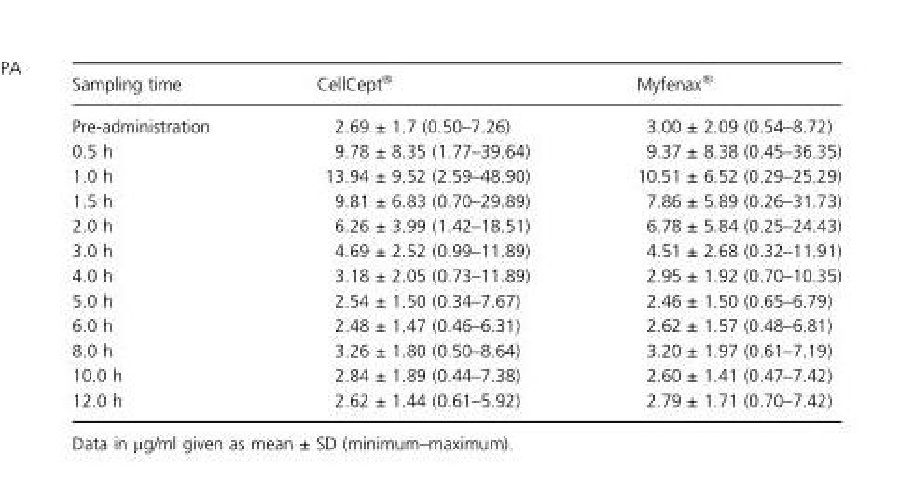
<table><thead><tr><td>Sampling time</td><td>CellCept®</td><td>Myfenax®</td></tr></thead><tbody><tr><td>Pre-administration</td><td>2.69 ± 1.7 (0.50–7.26)</td><td>3.00 ± 2.09 (0.54–8.72)</td></tr><tr><td>0.5 h</td><td>9.78 ± 8.35 (1.77–39.64)</td><td>9.37 ± 8.38 (0.45–36.35)</td></tr><tr><td>1.0 h</td><td>13.94 ± 9.52 (2.59–48.90)</td><td>10.51 ± 6.52 (0.29–25.29)</td></tr><tr><td>1.5 h</td><td>9.81 ± 6.83 (0.70–29.89)</td><td>7.86 ± 5.89 (0.26–31.73)</td></tr><tr><td>2.0 h</td><td>6.26 ± 3.99 (1.42–18.51)</td><td>6.78 ± 5.84 (0.25–24.43)</td></tr><tr><td>3.0 h</td><td>4.69 ± 2.52 (0.99–11.89)</td><td>4.51 ± 2.68 (0.32–11.91)</td></tr><tr><td>4.0 h</td><td>3.18 ± 2.05 (0.73–11.89)</td><td>2.95 ± 1.92 (0.70–10.35)</td></tr><tr><td>5.0 h</td><td>2.54 ± 1.50 (0.34–7.67)</td><td>2.46 ± 1.50 (0.65–6.79)</td></tr><tr><td>6.0 h</td><td>2.48 ± 1.47 (0.46–6.31)</td><td>2.62 ± 1.57 (0.48–6.81)</td></tr><tr><td>8.0 h</td><td>3.26 ± 1.80 (0.50–8.64)</td><td>3.20 ± 1.97 (0.61–7.19)</td></tr><tr><td>10.0 h</td><td>2.84 ± 1.89 (0.44–7.38)</td><td>2.60 ± 1.41 (0.47–7.42)</td></tr><tr><td>12.0 h</td><td>2.62 ± 1.44 (0.61–5.92)</td><td>2.79 ± 1.71 (0.70–7.42)</td></tr></tbody></table>